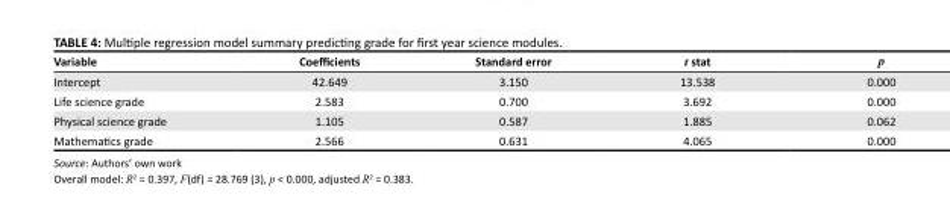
<table><thead><tr><td>Variable</td><td>Coefficients</td><td>Standard error</td><td>t stat</td><td>p</td></tr></thead><tbody><tr><td>Intercept</td><td>42.649</td><td>3.150</td><td>13.538</td><td>0.000</td></tr><tr><td>Life science grade</td><td>2.583</td><td>0.700</td><td>3.692</td><td>0.000</td></tr><tr><td>Physical science grade</td><td>1.105</td><td>0.587</td><td>1.885</td><td>0.062</td></tr><tr><td>Mathematics grade</td><td>2.566</td><td>0.631</td><td>4.065</td><td>0.000</td></tr></tbody></table>